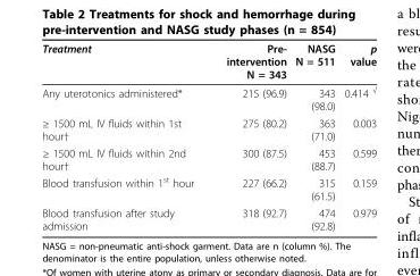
<table><thead><tr><td>Treatment</td><td>Pre- intervention N = 343</td><td>NASG N = 511</td><td>p value</td></tr></thead><tbody><tr><td>Any uterotonics administered*</td><td>215 (96.9)</td><td>343 (98.0)</td><td>0.414 <sup>√</sup></td></tr><tr><td>≥ 1500 mL IV fluids within 1st hour†</td><td>275 (80.2)</td><td>363 (71.0)</td><td>0.003</td></tr><tr><td>≥ 1500 mL IV fluids within 2nd hour†</td><td>300 (87.5)</td><td>453 (88.7)</td><td>0.599</td></tr><tr><td>Blood transfusion within 1<sup>st</sup> hour</td><td>227 (66.2)</td><td>315 (61.5)</td><td>0.159</td></tr><tr><td>Blood transfusion after study admission</td><td>318 (92.7)</td><td>474 (92.8)</td><td>0.979</td></tr></tbody></table>